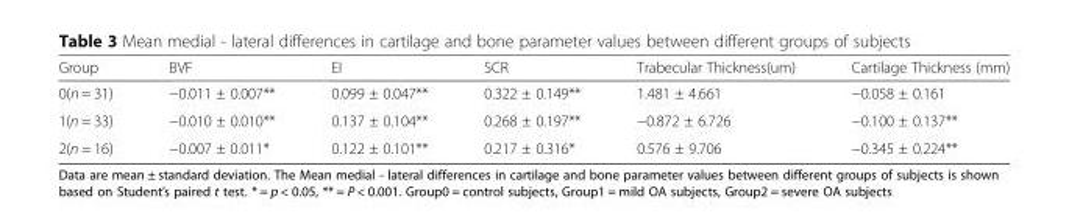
<table><thead><tr><td>Group</td><td>BVF</td><td>EI</td><td>SCR</td><td>Trabecular Thickness(um)</td><td>Cartilage Thickness (mm)</td></tr></thead><tbody><tr><td>0(n = 31)</td><td>−0.011 ± 0.007**</td><td>0.099 ± 0.047**</td><td>0.322 ± 0.149**</td><td>1.481 ± 4.661</td><td>−0.058 ± 0.161</td></tr><tr><td>1(n = 33)</td><td>−0.010 ± 0.010**</td><td>0.137 ± 0.104**</td><td>0.268 ± 0.197**</td><td>−0.872 ± 6.726</td><td>−0.100 ± 0.137**</td></tr><tr><td>2(n = 16)</td><td>−0.007 ± 0.011*</td><td>0.122 ± 0.101**</td><td>0.217 ± 0.316*</td><td>0.576 ± 9.706</td><td>−0.345 ± 0.224**</td></tr></tbody></table>